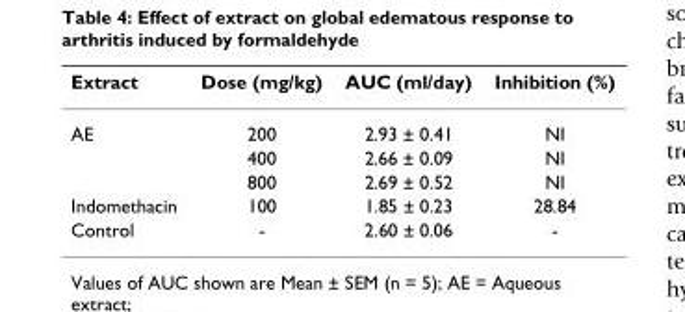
<table><thead><tr><td>Extract</td><td>Dose (mg/kg)</td><td>AUC (ml/day)</td><td>Inhibition (%)</td></tr></thead><tbody><tr><td rowspan="3">AE</td><td>200</td><td>2.93 ± 0.41</td><td>NI</td></tr><tr><td>400</td><td>2.66 ± 0.09</td><td>NI</td></tr><tr><td>800</td><td>2.69 ± 0.52</td><td>NI</td></tr><tr><td>Indomethacin</td><td>100</td><td>1.85 ± 0.23</td><td>28.84</td></tr><tr><td>Control</td><td>-</td><td>2.60 ± 0.06</td><td>-</td></tr></tbody></table>